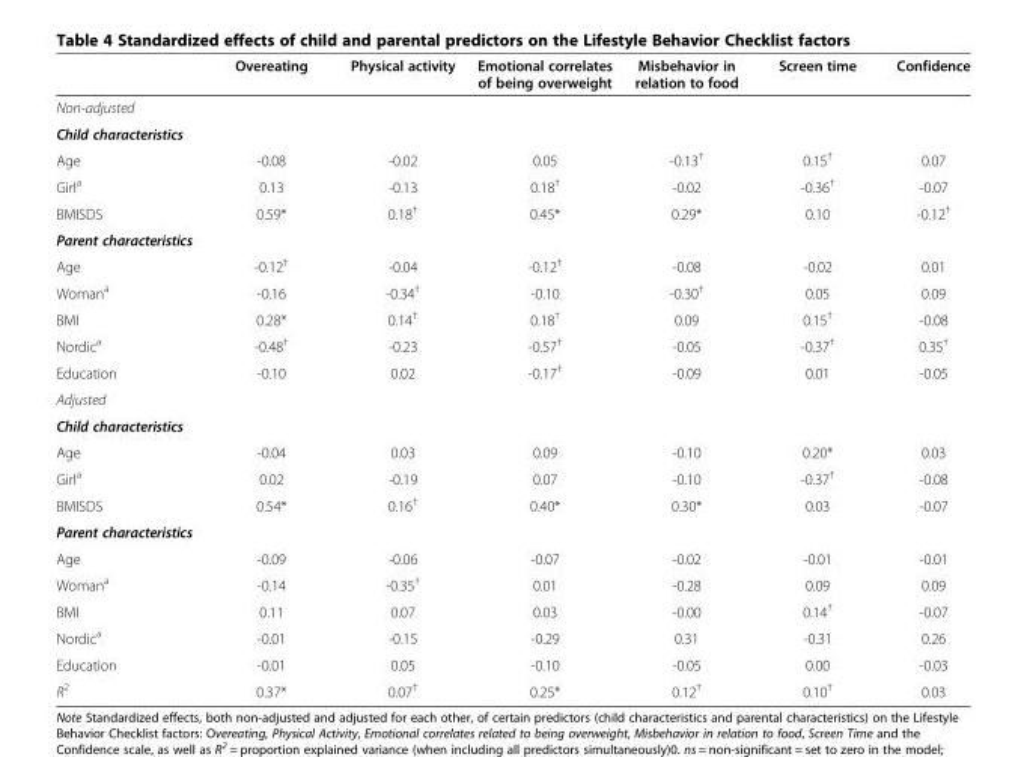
<table><thead><tr><td></td><td>Overeating</td><td>Physical activity</td><td>Emotional correlates of being overweight</td><td>Misbehavior in relation to food</td><td>Screen time</td><td>Confidence</td></tr></thead><tbody><tr><td colspan="7">Non-adjusted</td></tr><tr><td colspan="7">Child characteristics</td></tr><tr><td>Age</td><td>-0.08</td><td>-0.02</td><td>0.05</td><td>-0.13<sup>†</sup></td><td>0.15<sup>†</sup></td><td>0.07</td></tr><tr><td>Girl<sup>a</sup></td><td>0.13</td><td>-0.13</td><td>0.18<sup>†</sup></td><td>-0.02</td><td>-0.36<sup>†</sup></td><td>-0.07</td></tr><tr><td>BMISDS</td><td>0.59*</td><td>0.18<sup>†</sup></td><td>0.45*</td><td>0.29*</td><td>0.10</td><td>-0.12<sup>†</sup></td></tr><tr><td colspan="7">Parent characteristics</td></tr><tr><td>Age</td><td>-0.12<sup>†</sup></td><td>-0.04</td><td>-0.12<sup>†</sup></td><td>-0.08</td><td>-0.02</td><td>0.01</td></tr><tr><td>Woman<sup>a</sup></td><td>-0.16</td><td>-0.34<sup>†</sup></td><td>-0.10</td><td>-0.30<sup>†</sup></td><td>0.05</td><td>0.09</td></tr><tr><td>BMI</td><td>0.28*</td><td>0.14<sup>†</sup></td><td>0.18<sup>†</sup></td><td>0.09</td><td>0.15<sup>†</sup></td><td>-0.08</td></tr><tr><td>Nordic<sup>a</sup></td><td>-0.48<sup>†</sup></td><td>-0.23</td><td>-0.57<sup>†</sup></td><td>-0.05</td><td>-0.37<sup>†</sup></td><td>0.35<sup>†</sup></td></tr><tr><td>Education</td><td>-0.10</td><td>0.02</td><td>-0.17<sup>†</sup></td><td>-0.09</td><td>0.01</td><td>-0.05</td></tr><tr><td colspan="7">Adjusted</td></tr><tr><td colspan="7">Child characteristics</td></tr><tr><td>Age</td><td>-0.04</td><td>0.03</td><td>0.09</td><td>-0.10</td><td>0.20*</td><td>0.03</td></tr><tr><td>Girl<sup>a</sup></td><td>0.02</td><td>-0.19</td><td>0.07</td><td>-0.10</td><td>-0.37<sup>†</sup></td><td>-0.08</td></tr><tr><td>BMISDS</td><td>0.54*</td><td>0.16<sup>†</sup></td><td>0.40*</td><td>0.30*</td><td>0.03</td><td>-0.07</td></tr><tr><td colspan="7">Parent characteristics</td></tr><tr><td>Age</td><td>-0.09</td><td>-0.06</td><td>-0.07</td><td>-0.02</td><td>-0.01</td><td>-0.01</td></tr><tr><td>Woman<sup>a</sup></td><td>-0.14</td><td>-0.35<sup>†</sup></td><td>0.01</td><td>-0.28</td><td>0.09</td><td>0.09</td></tr><tr><td>BMI</td><td>0.11</td><td>0.07</td><td>0.03</td><td>-0.00</td><td>0.14<sup>†</sup></td><td>-0.07</td></tr><tr><td>Nordic<sup>a</sup></td><td>-0.01</td><td>-0.15</td><td>-0.29</td><td>0.31</td><td>-0.31</td><td>0.26</td></tr><tr><td>Education</td><td>-0.01</td><td>0.05</td><td>-0.10</td><td>-0.05</td><td>0.00</td><td>-0.03</td></tr><tr><td>R<sup>2</sup></td><td>0.37*</td><td>0.07<sup>†</sup></td><td>0.25*</td><td>0.12<sup>†</sup></td><td>0.10<sup>†</sup></td><td>0.03</td></tr></tbody></table>